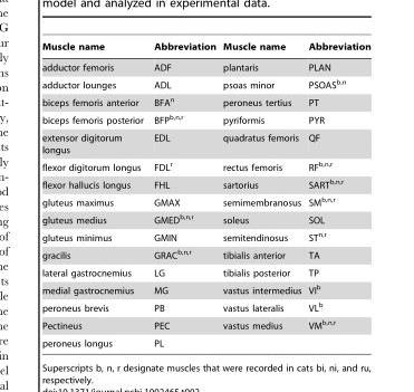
<table><thead><tr><td>Muscle name</td><td>Abbreviation</td><td>Muscle name</td><td>Abbreviation</td></tr></thead><tbody><tr><td>adductor femoris</td><td>ADF</td><td>plantaris</td><td>PLAN</td></tr><tr><td>adductor lounges</td><td>ADL</td><td>psoas minor</td><td>PSOAS<sup>b,n</sup></td></tr><tr><td>biceps femoris anterior</td><td>BFA<sup>n</sup></td><td>peroneus tertius</td><td>PT</td></tr><tr><td>biceps femoris posterior</td><td>BFP<sup>b,n,r</sup></td><td>pyriformis</td><td>PYR</td></tr><tr><td>extensor digitorum longus</td><td>EDL</td><td>quadratus femoris</td><td>QF</td></tr><tr><td>flexor digitorum longus</td><td>FDL<sup>r</sup></td><td>rectus femoris</td><td>RF<sup>b,n,r</sup></td></tr><tr><td>flexor hallucis longus</td><td>FHL</td><td>sartorius</td><td>SART<sup>b,n,r</sup></td></tr><tr><td>gluteus maximus</td><td>GMAX</td><td>semimembranosus</td><td>SM<sup>b,n,r</sup></td></tr><tr><td>gluteus medius</td><td>GMED<sup>b,n,r</sup></td><td>soleus</td><td>SOL</td></tr><tr><td>gluteus minimus</td><td>GMIN</td><td>semitendinosus</td><td>ST<sup>n,r</sup></td></tr><tr><td>gracilis</td><td>GRAC<sup>b,n,r</sup></td><td>tibialis anterior</td><td>TA</td></tr><tr><td>lateral gastrocnemius</td><td>LG</td><td>tibialis posterior</td><td>TP</td></tr><tr><td>medial gastrocnemius</td><td>MG</td><td>vastus intermedius</td><td>VI<sup>b</sup></td></tr><tr><td>peroneus brevis</td><td>PB</td><td>vastus lateralis</td><td>VL<sup>b</sup></td></tr><tr><td>Pectineus</td><td>PEC</td><td>vastus medius</td><td>VM<sup>b,n,r</sup></td></tr><tr><td>peroneus longus</td><td>PL</td><td></td><td></td></tr></tbody></table>